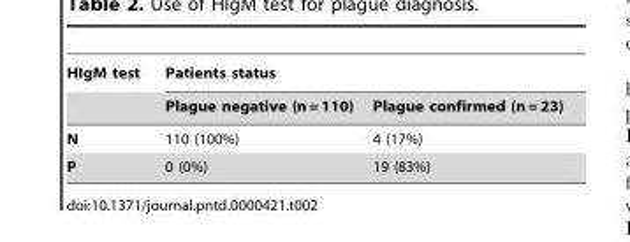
<table><thead><tr><td rowspan="2">HIgM test</td><td colspan="2">Patients status</td></tr><tr><td>Plague negative (n = 110)</td><td>Plague confirmed (n = 23)</td></tr></thead><tbody><tr><td>N</td><td>110 (100%)</td><td>4 (17%)</td></tr><tr><td>P</td><td>0 (0%)</td><td>19 (83%)</td></tr></tbody></table>